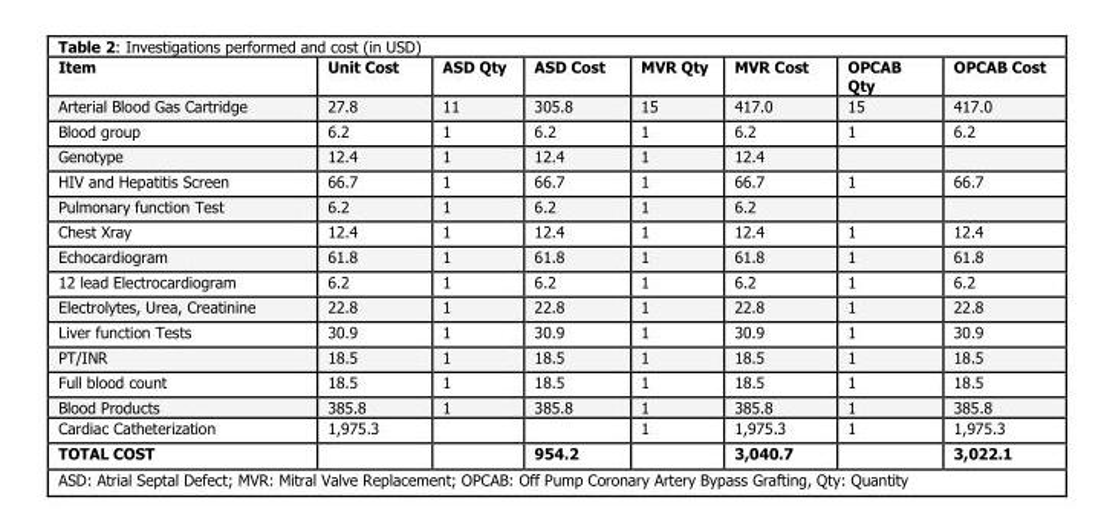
<table><thead><tr><td>Item</td><td>Unit Cost</td><td>ASD Qty</td><td>ASD Cost</td><td>MVR Qty</td><td>MVR Cost</td><td>OPCAB Qty</td><td>OPCAB Cost</td></tr></thead><tbody><tr><td>Arterial Blood Gas Cartridge</td><td>27.8</td><td>11</td><td>305.8</td><td>15</td><td>417.0</td><td>15</td><td>417.0</td></tr><tr><td>Blood group</td><td>6.2</td><td>1</td><td>6.2</td><td>1</td><td>6.2</td><td>1</td><td>6.2</td></tr><tr><td>Genotype</td><td>12.4</td><td>1</td><td>12.4</td><td>1</td><td>12.4</td><td></td><td></td></tr><tr><td>HIV and Hepatitis Screen</td><td>66.7</td><td>1</td><td>66.7</td><td>1</td><td>66.7</td><td>1</td><td>66.7</td></tr><tr><td>Pulmonary function Test</td><td>6.2</td><td>1</td><td>6.2</td><td>1</td><td>6.2</td><td></td><td></td></tr><tr><td>Chest Xray</td><td>12.4</td><td>1</td><td>12.4</td><td>1</td><td>12.4</td><td>1</td><td>12.4</td></tr><tr><td>Echocardiogram</td><td>61.8</td><td>1</td><td>61.8</td><td>1</td><td>61.8</td><td>1</td><td>61.8</td></tr><tr><td>12 lead Electrocardiogram</td><td>6.2</td><td>1</td><td>6.2</td><td>1</td><td>6.2</td><td>1</td><td>6.2</td></tr><tr><td>Electrolytes, Urea, Creatinine</td><td>22.8</td><td>1</td><td>22.8</td><td>1</td><td>22.8</td><td>1</td><td>22.8</td></tr><tr><td>Liver function Tests</td><td>30.9</td><td>1</td><td>30.9</td><td>1</td><td>30.9</td><td>1</td><td>30.9</td></tr><tr><td>PT/INR</td><td>18.5</td><td>1</td><td>18.5</td><td>1</td><td>18.5</td><td>1</td><td>18.5</td></tr><tr><td>Full blood count</td><td>18.5</td><td>1</td><td>18.5</td><td>1</td><td>18.5</td><td>1</td><td>18.5</td></tr><tr><td>Blood Products</td><td>385.8</td><td>1</td><td>385.8</td><td>1</td><td>385.8</td><td>1</td><td>385.8</td></tr><tr><td>Cardiac Catheterization</td><td>1,975.3</td><td></td><td></td><td>1</td><td>1,975.3</td><td>1</td><td>1,975.3</td></tr><tr><td>TOTAL COST</td><td></td><td></td><td>954.2</td><td></td><td>3,040.7</td><td></td><td>3,022.1</td></tr></tbody></table>